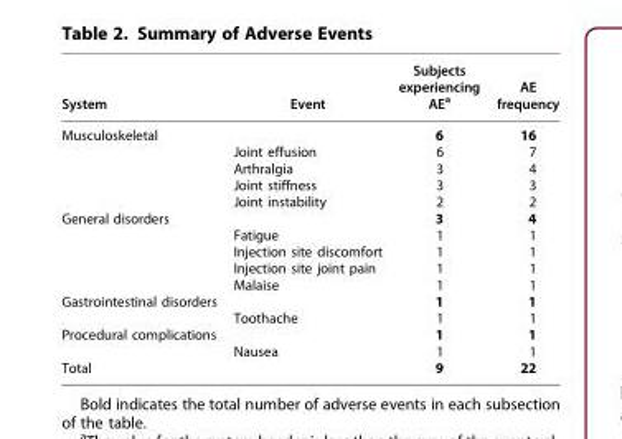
<table><thead><tr><td>System</td><td>Event</td><td>Subjects experiencing AE<sup>a</sup></td><td>AE frequency</td></tr></thead><tbody><tr><td rowspan="5">Musculoskeletal</td><td></td><td>6</td><td>16</td></tr><tr><td>Joint effusion</td><td>6</td><td>7</td></tr><tr><td>Arthralgia</td><td>3</td><td>4</td></tr><tr><td>Joint stiffness</td><td>3</td><td>3</td></tr><tr><td>Joint instability</td><td>2</td><td>2</td></tr><tr><td rowspan="5">General disorders</td><td></td><td>3</td><td>4</td></tr><tr><td>Fatigue</td><td>1</td><td>1</td></tr><tr><td>Injection site discomfort</td><td>1</td><td>1</td></tr><tr><td>Injection site joint pain</td><td>1</td><td>1</td></tr><tr><td>Malaise</td><td>1</td><td>1</td></tr><tr><td rowspan="2">Gastrointestinal disorders</td><td></td><td>1</td><td>1</td></tr><tr><td>Toothache</td><td>1</td><td>1</td></tr><tr><td rowspan="2">Procedural complications</td><td></td><td>1</td><td>1</td></tr><tr><td>Nausea</td><td>1</td><td>1</td></tr><tr><td>Total</td><td></td><td>9</td><td>22</td></tr></tbody></table>